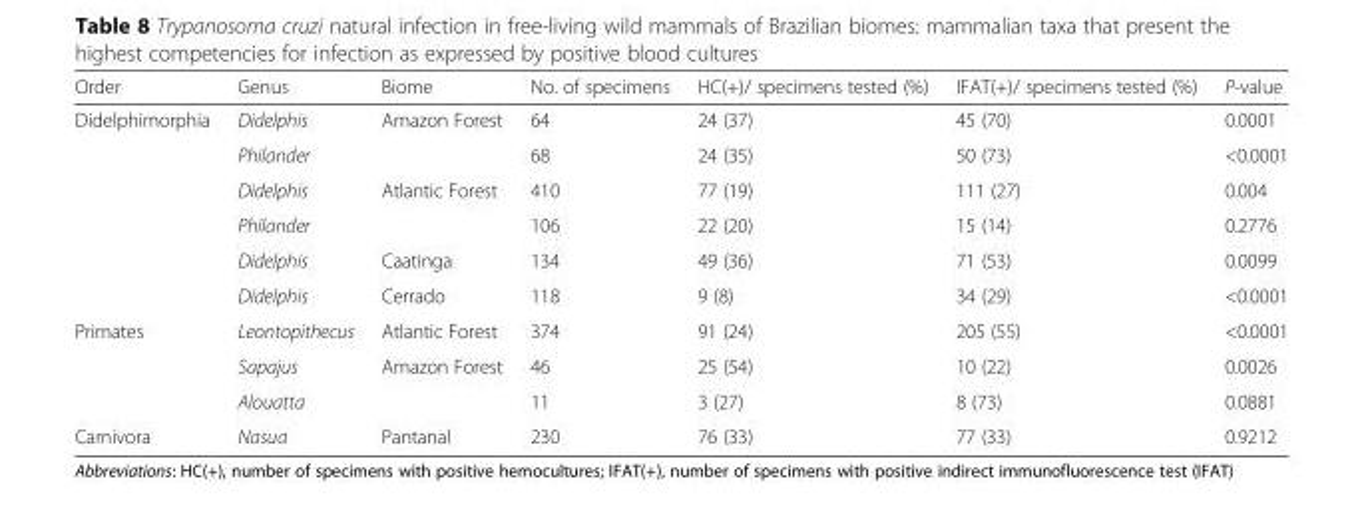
<table><thead><tr><td>Order</td><td>Genus</td><td>Biome</td><td>No. of specimens</td><td>HC(+)/ specimens tested (%)</td><td>IFAT(+)/ specimens tested (%)</td><td>P-value</td></tr></thead><tbody><tr><td rowspan="6">Didelphimorphia</td><td>Didelphis</td><td rowspan="2">Amazon Forest</td><td>64</td><td>24 (37)</td><td>45 (70)</td><td>0.0001</td></tr><tr><td>Philander</td><td>68</td><td>24 (35)</td><td>50 (73)</td><td>&lt;0.0001</td></tr><tr><td>Didelphis</td><td rowspan="2">Atlantic Forest</td><td>410</td><td>77 (19)</td><td>111 (27)</td><td>0.004</td></tr><tr><td>Philander</td><td>106</td><td>22 (20)</td><td>15 (14)</td><td>0.2776</td></tr><tr><td>Didelphis</td><td>Caatinga</td><td>134</td><td>49 (36)</td><td>71 (53)</td><td>0.0099</td></tr><tr><td>Didelphis</td><td>Cerrado</td><td>118</td><td>9 (8)</td><td>34 (29)</td><td>&lt;0.0001</td></tr><tr><td rowspan="3">Primates</td><td>Leontopithecus</td><td>Atlantic Forest</td><td>374</td><td>91 (24)</td><td>205 (55)</td><td>&lt;0.0001</td></tr><tr><td>Sapajus</td><td rowspan="2">Amazon Forest</td><td>46</td><td>25 (54)</td><td>10 (22)</td><td>0.0026</td></tr><tr><td>Alouatta</td><td>11</td><td>3 (27)</td><td>8 (73)</td><td>0.0881</td></tr><tr><td>Carnivora</td><td>Nasua</td><td>Pantanal</td><td>230</td><td>76 (33)</td><td>77 (33)</td><td>0.9212</td></tr></tbody></table>